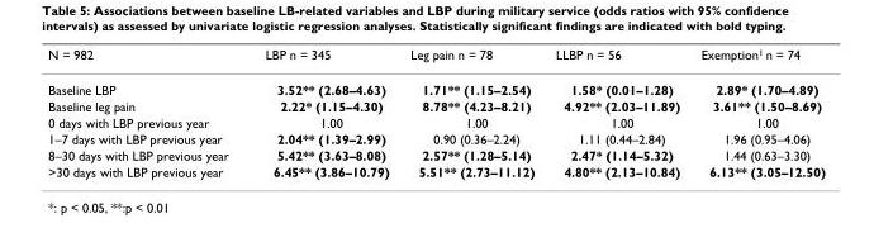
<table><thead><tr><td>N = 982</td><td>LBP n = 345</td><td>Leg pain n = 78</td><td>LLBP n = 56</td><td>Exemption<sup>1</sup> n = 74</td></tr></thead><tbody><tr><td>Baseline LBP</td><td>3.52** (2.68–4.63)</td><td>1.71** (1.15–2.54)</td><td>1.58* (0.01–1.28)</td><td>2.89* (1.70–4.89)</td></tr><tr><td>Baseline leg pain</td><td>2.22* (1.15–4.30)</td><td>8.78** (4.23–8.21)</td><td>4.92** (2.03–11.89)</td><td>3.61** (1.50–8.69)</td></tr><tr><td>0 days with LBP previous year</td><td>1.00</td><td>1.00</td><td>1.00</td><td>1.00</td></tr><tr><td>1–7 days with LBP previous year</td><td>2.04** (1.39–2.99)</td><td>0.90 (0.36–2.24)</td><td>1.11 (0.44–2.84)</td><td>1.96 (0.95–4.06)</td></tr><tr><td>8–30 days with LBP previous year</td><td>5.42** (3.63–8.08)</td><td>2.57** (1.28–5.14)</td><td>2.47* (1.14–5.32)</td><td>1.44 (0.63–3.30)</td></tr><tr><td>&gt;30 days with LBP previous year</td><td>6.45** (3.86–10.79)</td><td>5.51** (2.73–11.12)</td><td>4.80** (2.13–10.84)</td><td>6.13** (3.05–12.50)</td></tr></tbody></table>